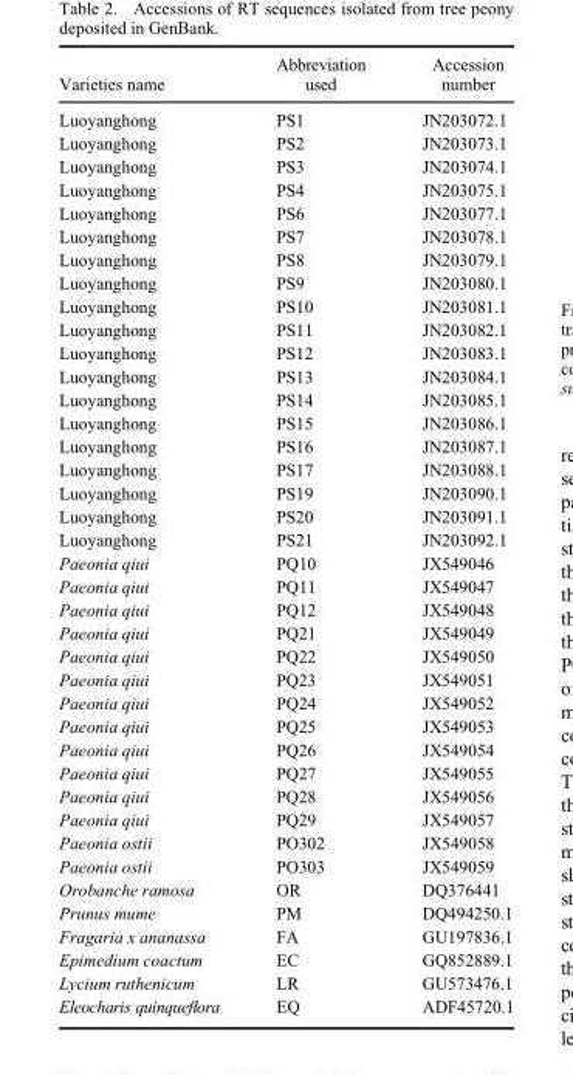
<table><thead><tr><td>Varieties name</td><td>Abbreviation used</td><td>Accession number</td></tr></thead><tbody><tr><td>Luoyanghong</td><td>PS1</td><td>JN203072.1</td></tr><tr><td>Luoyanghong</td><td>PS2</td><td>JN203073.1</td></tr><tr><td>Luoyanghong</td><td>PS3</td><td>JN203074.1</td></tr><tr><td>Luoyanghong</td><td>PS4</td><td>JN203075.1</td></tr><tr><td>Luoyanghong</td><td>PS6</td><td>JN203077.1</td></tr><tr><td>Luoyanghong</td><td>PS7</td><td>JN203078.1</td></tr><tr><td>Luoyanghong</td><td>PS8</td><td>JN203079.1</td></tr><tr><td>Luoyanghong</td><td>PS9</td><td>JN203080.1</td></tr><tr><td>Luoyanghong</td><td>PS10</td><td>JN203081.1</td></tr><tr><td>Luoyanghong</td><td>PS11</td><td>JN203082.1</td></tr><tr><td>Luoyanghong</td><td>PS12</td><td>JN203083.1</td></tr><tr><td>Luoyanghong</td><td>PS13</td><td>JN203084.1</td></tr><tr><td>Luoyanghong</td><td>PS14</td><td>JN203085.1</td></tr><tr><td>Luoyanghong</td><td>PS15</td><td>JN203086.1</td></tr><tr><td>Luoyanghong</td><td>PS16</td><td>JN203087.1</td></tr><tr><td>Luoyanghong</td><td>PS17</td><td>JN203088.1</td></tr><tr><td>Luoyanghong</td><td>PS19</td><td>JN203090.1</td></tr><tr><td>Luoyanghong</td><td>PS20</td><td>JN203091.1</td></tr><tr><td>Luoyanghong</td><td>PS21</td><td>JN203092.1</td></tr><tr><td>Paeonia qiui</td><td>PQ10</td><td>JX549046</td></tr><tr><td>Paeonia qiui</td><td>PQ11</td><td>JX549047</td></tr><tr><td>Paeonia qiui</td><td>PQ12</td><td>JX549048</td></tr><tr><td>Paeonia qiui</td><td>PQ21</td><td>JX549049</td></tr><tr><td>Paeonia qiui</td><td>PQ22</td><td>JX549050</td></tr><tr><td>Paeonia qiui</td><td>PQ23</td><td>JX549051</td></tr><tr><td>Paeonia qiui</td><td>PQ24</td><td>JX549052</td></tr><tr><td>Paeonia qiui</td><td>PQ25</td><td>JX549053</td></tr><tr><td>Paeonia qiui</td><td>PQ26</td><td>JX549054</td></tr><tr><td>Paeonia qiui</td><td>PQ27</td><td>JX549055</td></tr><tr><td>Paeonia qiui</td><td>PQ28</td><td>JX549056</td></tr><tr><td>Paeonia qiui</td><td>PQ29</td><td>JX549057</td></tr><tr><td>Paeonia ostii</td><td>PO302</td><td>JX549058</td></tr><tr><td>Paeonia ostii</td><td>PO303</td><td>JX549059</td></tr><tr><td>Orobanche ramosa</td><td>OR</td><td>DQ376441</td></tr><tr><td>Prunus mume</td><td>PM</td><td>DQ494250.1</td></tr><tr><td>Fragaria x ananassa</td><td>FA</td><td>GU197836.1</td></tr><tr><td>Epimedium coactum</td><td>EC</td><td>GQ852889.1</td></tr><tr><td>Lycium ruthenicum</td><td>LR</td><td>GU573476.1</td></tr><tr><td>Eleocharis quinqueflora</td><td>EQ</td><td>ADF45720.1</td></tr></tbody></table>